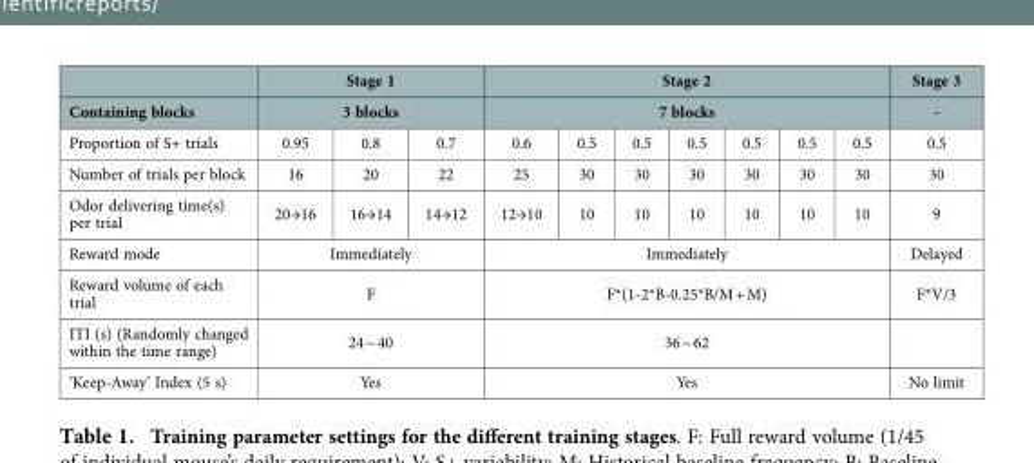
<table><thead><tr><td rowspan="3">Containing blocks Proportion of S+ trials</td><td rowspan="2" colspan="3">Stage 1 3 blocks</td><td rowspan="2" colspan="7">Stage 2 7 blocks</td><td rowspan="3">Stage 3 - 0.5</td></tr><tr></tr><tr><td>0.95</td><td>0.8</td><td>0.7</td><td>0.6</td><td>0.5</td><td>0.5</td><td>0.5</td><td>0.5</td><td>0.5</td><td>0.5</td></tr></thead><tbody><tr><td>Number of trials per block</td><td>16</td><td>20</td><td>22</td><td>25</td><td>30</td><td>30</td><td>30</td><td>30</td><td>30</td><td>30</td><td>30</td></tr><tr><td>Odor delivering time(s) per trial</td><td>20→16</td><td>16→14</td><td>14→12</td><td>12→10</td><td>10</td><td>10</td><td>10</td><td>10</td><td>10</td><td>10</td><td>9</td></tr><tr><td>Reward mode</td><td colspan="3">Immediately</td><td colspan="7">Immediately</td><td>Delayed</td></tr><tr><td>Reward volume of each trial</td><td colspan="3">F</td><td colspan="7">F*(1-2*B-0.25*B/M + M)</td><td>F*V/3</td></tr><tr><td>ITI (s) (Randomly changed within the time range)</td><td colspan="3">24 ~ 40</td><td colspan="7">36 ~ 62</td><td></td></tr><tr><td>‘Keep-Away’ Index (5 s)</td><td colspan="3">Yes</td><td colspan="7">Yes</td><td>No limit</td></tr></tbody></table>